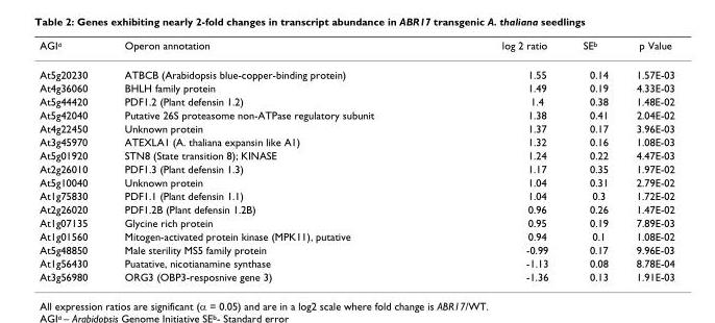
<table><thead><tr><td>AGI<sup>a</sup></td><td>Operon annotation</td><td>log 2 ratio</td><td>SE<sup>b</sup></td><td>p Value</td></tr></thead><tbody><tr><td>At5g20230</td><td>ATBCB (Arabidopsis blue-copper-binding protein)</td><td>1.55</td><td>0.14</td><td>1.57E-03</td></tr><tr><td>At4g36060</td><td>BHLH family protein</td><td>1.49</td><td>0.19</td><td>4.33E-03</td></tr><tr><td>At5g44420</td><td>PDF1.2 (Plant defensin 1.2)</td><td>1.4</td><td>0.38</td><td>1.48E-02</td></tr><tr><td>At5g42040</td><td>Putative 26S proteasome non-ATPase regulatory subunit</td><td>1.38</td><td>0.41</td><td>2.04E-02</td></tr><tr><td>At4g22450</td><td>Unknown protein</td><td>1.37</td><td>0.17</td><td>3.96E-03</td></tr><tr><td>At3g45970</td><td>ATEXLA1 (A. thaliana expansin like A1)</td><td>1.32</td><td>0.16</td><td>1.08E-03</td></tr><tr><td>At5g01920</td><td>STN8 (State transition 8); KINASE</td><td>1.24</td><td>0.22</td><td>4.47E-03</td></tr><tr><td>At2g26010</td><td>PDF1.3 (Plant defensin 1.3)</td><td>1.17</td><td>0.35</td><td>1.97E-02</td></tr><tr><td>At5g10040</td><td>Unknown protein</td><td>1.04</td><td>0.31</td><td>2.79E-02</td></tr><tr><td>At1g75830</td><td>PDF1.1 (Plant defensin 1.1)</td><td>1.04</td><td>0.3</td><td>1.72E-02</td></tr><tr><td>At2g26020</td><td>PDF1.2B (Plant defensin 1.2B)</td><td>0.96</td><td>0.26</td><td>1.47E-02</td></tr><tr><td>At1g07135</td><td>Glycine rich protein</td><td>0.95</td><td>0.19</td><td>7.89E-03</td></tr><tr><td>At1g01560</td><td>Mitogen-activated protein kinase (MPK11), putative</td><td>0.94</td><td>0.1</td><td>1.08E-02</td></tr><tr><td>At5g48850</td><td>Male sterility MS5 family protein</td><td>-0.99</td><td>0.17</td><td>9.96E-03</td></tr><tr><td>At1g56430</td><td>Puatative, nicotianamine synthase</td><td>-1.13</td><td>0.08</td><td>8.78E-04</td></tr><tr><td>At3g56980</td><td>ORG3 (OBP3-resposnive gene 3)</td><td>-1.36</td><td>0.13</td><td>1.91E-03</td></tr></tbody></table>